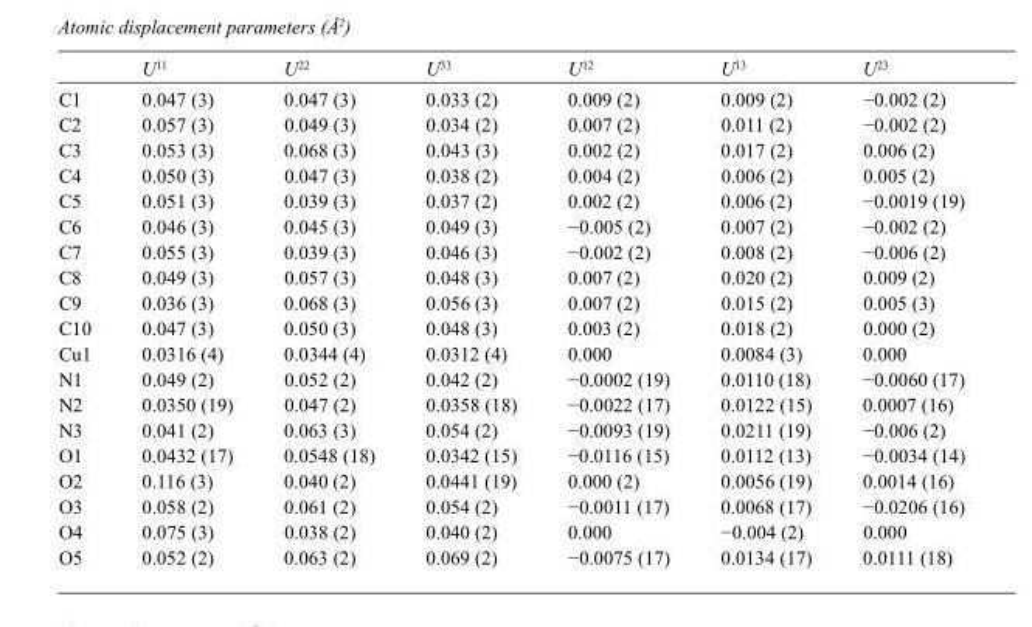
<table><thead><tr><td></td><td>U<sup>11</sup></td><td>U<sup>22</sup></td><td>U<sup>33</sup></td><td>U<sup>12</sup></td><td>U<sup>13</sup></td><td>U<sup>23</sup></td></tr></thead><tbody><tr><td>C1</td><td>0.047 (3)</td><td>0.047 (3)</td><td>0.033 (2)</td><td>0.009 (2)</td><td>0.009 (2)</td><td>−0.002 (2)</td></tr><tr><td>C2</td><td>0.057 (3)</td><td>0.049 (3)</td><td>0.034 (2)</td><td>0.007 (2)</td><td>0.011 (2)</td><td>−0.002 (2)</td></tr><tr><td>C3</td><td>0.053 (3)</td><td>0.068 (3)</td><td>0.043 (3)</td><td>0.002 (2)</td><td>0.017 (2)</td><td>0.006 (2)</td></tr><tr><td>C4</td><td>0.050 (3)</td><td>0.047 (3)</td><td>0.038 (2)</td><td>0.004 (2)</td><td>0.006 (2)</td><td>0.005 (2)</td></tr><tr><td>C5</td><td>0.051 (3)</td><td>0.039 (3)</td><td>0.037 (2)</td><td>0.002 (2)</td><td>0.006 (2)</td><td>−0.0019 (19)</td></tr><tr><td>C6</td><td>0.046 (3)</td><td>0.045 (3)</td><td>0.049 (3)</td><td>−0.005 (2)</td><td>0.007 (2)</td><td>−0.002 (2)</td></tr><tr><td>C7</td><td>0.055 (3)</td><td>0.039 (3)</td><td>0.046 (3)</td><td>−0.002 (2)</td><td>0.008 (2)</td><td>−0.006 (2)</td></tr><tr><td>C8</td><td>0.049 (3)</td><td>0.057 (3)</td><td>0.048 (3)</td><td>0.007 (2)</td><td>0.020 (2)</td><td>0.009 (2)</td></tr><tr><td>C9</td><td>0.036 (3)</td><td>0.068 (3)</td><td>0.056 (3)</td><td>0.007 (2)</td><td>0.015 (2)</td><td>0.005 (3)</td></tr><tr><td>C10</td><td>0.047 (3)</td><td>0.050 (3)</td><td>0.048 (3)</td><td>0.003 (2)</td><td>0.018 (2)</td><td>0.000 (2)</td></tr><tr><td>Cu1</td><td>0.0316 (4)</td><td>0.0344 (4)</td><td>0.0312 (4)</td><td>0.000</td><td>0.0084 (3)</td><td>0.000</td></tr><tr><td>N1</td><td>0.049 (2)</td><td>0.052 (2)</td><td>0.042 (2)</td><td>−0.0002 (19)</td><td>0.0110 (18)</td><td>−0.0060 (17)</td></tr><tr><td>N2</td><td>0.0350 (19)</td><td>0.047 (2)</td><td>0.0358 (18)</td><td>−0.0022 (17)</td><td>0.0122 (15)</td><td>0.0007 (16)</td></tr><tr><td>N3</td><td>0.041 (2)</td><td>0.063 (3)</td><td>0.054 (2)</td><td>−0.0093 (19)</td><td>0.0211 (19)</td><td>−0.006 (2)</td></tr><tr><td>O1</td><td>0.0432 (17)</td><td>0.0548 (18)</td><td>0.0342 (15)</td><td>−0.0116 (15)</td><td>0.0112 (13)</td><td>−0.0034 (14)</td></tr><tr><td>O2</td><td>0.116 (3)</td><td>0.040 (2)</td><td>0.0441 (19)</td><td>0.000 (2)</td><td>0.0056 (19)</td><td>0.0014 (16)</td></tr><tr><td>O3</td><td>0.058 (2)</td><td>0.061 (2)</td><td>0.054 (2)</td><td>−0.0011 (17)</td><td>0.0068 (17)</td><td>−0.0206 (16)</td></tr><tr><td>O4</td><td>0.075 (3)</td><td>0.038 (2)</td><td>0.040 (2)</td><td>0.000</td><td>−0.004 (2)</td><td>0.000</td></tr><tr><td>O5</td><td>0.052 (2)</td><td>0.063 (2)</td><td>0.069 (2)</td><td>−0.0075 (17)</td><td>0.0134 (17)</td><td>0.0111 (18)</td></tr></tbody></table>